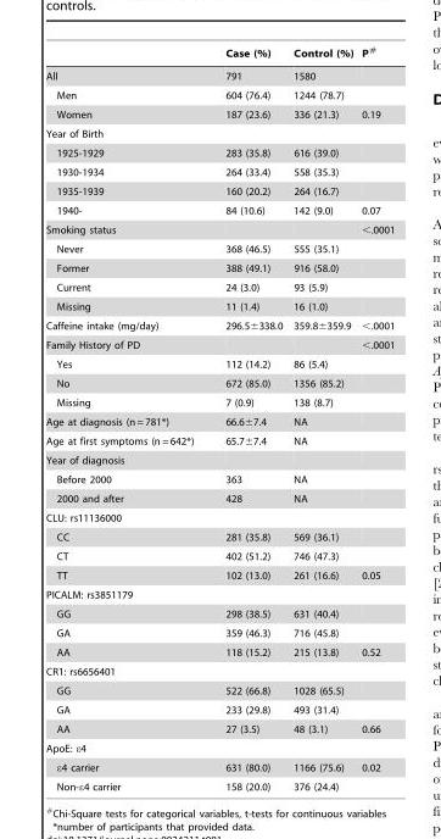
<table><thead><tr><td></td><td>Case (%)</td><td>Control (%)</td><td>P#</td></tr></thead><tbody><tr><td>All</td><td>791</td><td>1580</td><td></td></tr><tr><td>Men</td><td>604 (76.4)</td><td>1244 (78.7)</td><td></td></tr><tr><td>Women</td><td>187 (23.6)</td><td>336 (21.3)</td><td>0.19</td></tr><tr><td colspan="4">Year of Birth</td></tr><tr><td>1925-1929</td><td>283 (35.8)</td><td>616 (39.0)</td><td></td></tr><tr><td>1930-1934</td><td>264 (33.4)</td><td>558 (35.3)</td><td></td></tr><tr><td>1935-1939</td><td>160 (20.2)</td><td>264 (16.7)</td><td></td></tr><tr><td>1940-</td><td>84 (10.6)</td><td>142 (9.0)</td><td>0.07</td></tr><tr><td>Smoking status</td><td></td><td></td><td>&lt;.0001</td></tr><tr><td>Never</td><td>368 (46.5)</td><td>555 (35.1)</td><td></td></tr><tr><td>Former</td><td>388 (49.1)</td><td>916 (58.0)</td><td></td></tr><tr><td>Current</td><td>24 (3.0)</td><td>93 (5.9)</td><td></td></tr><tr><td>Missing</td><td>11 (1.4)</td><td>16 (1.0)</td><td></td></tr><tr><td>Caffeine intake (mg/day)</td><td>296.5±338.0</td><td>359.8±359.9</td><td>&lt;.0001</td></tr><tr><td>Family History of PD</td><td></td><td></td><td>&lt;.0001</td></tr><tr><td>Yes</td><td>112 (14.2)</td><td>86 (5.4)</td><td></td></tr><tr><td>No</td><td>672 (85.0)</td><td>1356 (85.2)</td><td></td></tr><tr><td>Missing</td><td>7 (0.9)</td><td>138 (8.7)</td><td></td></tr><tr><td>Age at diagnosis (n = 781*)</td><td>66.6±7.4</td><td>NA</td><td></td></tr><tr><td>Age at first symptoms (n = 642*)</td><td>65.7±7.4</td><td>NA</td><td></td></tr><tr><td colspan="4">Year of diagnosis</td></tr><tr><td>Before 2000</td><td>363</td><td>NA</td><td></td></tr><tr><td>2000 and after</td><td>428</td><td>NA</td><td></td></tr><tr><td colspan="4">CLU: rs11136000</td></tr><tr><td>CC</td><td>281 (35.8)</td><td>569 (36.1)</td><td></td></tr><tr><td>CT</td><td>402 (51.2)</td><td>746 (47.3)</td><td></td></tr><tr><td>TT</td><td>102 (13.0)</td><td>261 (16.6)</td><td>0.05</td></tr><tr><td colspan="4">PICALM: rs3851179</td></tr><tr><td>GG</td><td>298 (38.5)</td><td>631 (40.4)</td><td></td></tr><tr><td>GA</td><td>359 (46.3)</td><td>716 (45.8)</td><td></td></tr><tr><td>AA</td><td>118 (15.2)</td><td>215 (13.8)</td><td>0.52</td></tr><tr><td colspan="4">CR1: rs6656401</td></tr><tr><td>GG</td><td>522 (66.8)</td><td>1028 (65.5)</td><td></td></tr><tr><td>GA</td><td>233 (29.8)</td><td>493 (31.4)</td><td></td></tr><tr><td>AA</td><td>27 (3.5)</td><td>48 (3.1)</td><td>0.66</td></tr><tr><td colspan="4">ApoE: ε4</td></tr><tr><td>ε4 carrier</td><td>631 (80.0)</td><td>1166 (75.6)</td><td>0.02</td></tr><tr><td>Non-ε4 carrier</td><td>158 (20.0)</td><td>376 (24.4)</td><td></td></tr></tbody></table>